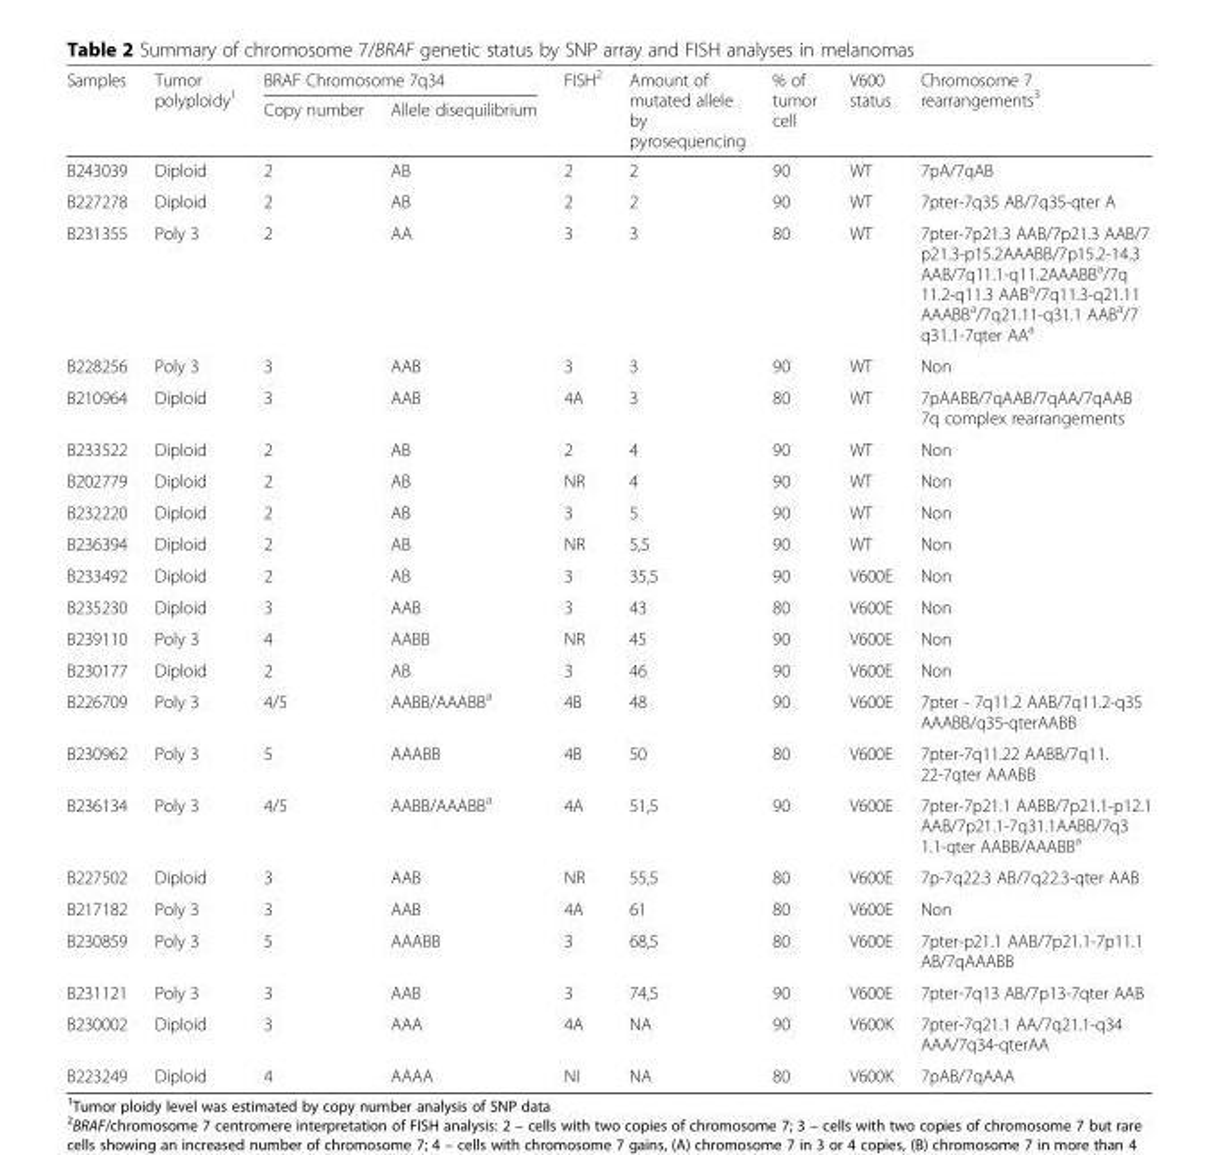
<table><thead><tr><td rowspan="2">Samples</td><td rowspan="2">Tumor polyploidy<sup>1</sup></td><td colspan="2">BRAF Chromosome 7q34</td><td rowspan="2">FISH<sup>2</sup></td><td rowspan="2">Amount of mutated allele by pyrosequencing</td><td rowspan="2">% of tumor cell</td><td rowspan="2">V600 status</td><td rowspan="2">Chromosome 7 rearrangements<sup>3</sup></td></tr><tr><td>Copy number</td><td>Allele disequilibrium</td></tr></thead><tbody><tr><td>B243039</td><td>Diploid</td><td>2</td><td>AB</td><td>2</td><td>2</td><td>90</td><td>WT</td><td>7pA/7qAB</td></tr><tr><td>B227278</td><td>Diploid</td><td>2</td><td>AB</td><td>2</td><td>2</td><td>90</td><td>WT</td><td>7pter-7q35 AB/7q35-qter A</td></tr><tr><td>B231355</td><td>Poly 3</td><td>2</td><td>AA</td><td>3</td><td>3</td><td>80</td><td>WT</td><td>7pter-7p21.3 AAB/7p21.3 AAB/7 p21.3-p15.2AAABB/7p15.2-14.3 AAB/7q11.1-q11.2AAABB<sup>a</sup>/7q 11.2-q11.3 AAB<sup>a</sup>/7q11.3-q21.11 AAABB<sup>a</sup>/7q21.11-q31.1 AAB<sup>a</sup>/7 q31.1-7qter AA<sup>a</sup></td></tr><tr><td>B228256</td><td>Poly 3</td><td>3</td><td>AAB</td><td>3</td><td>3</td><td>90</td><td>WT</td><td>Non</td></tr><tr><td>B210964</td><td>Diploid</td><td>3</td><td>AAB</td><td>4A</td><td>3</td><td>80</td><td>WT</td><td>7pAABB/7qAAB/7qAA/7qAAB 7q complex rearrangements</td></tr><tr><td>B233522</td><td>Diploid</td><td>2</td><td>AB</td><td>2</td><td>4</td><td>90</td><td>WT</td><td>Non</td></tr><tr><td>B202779</td><td>Diploid</td><td>2</td><td>AB</td><td>NR</td><td>4</td><td>90</td><td>WT</td><td>Non</td></tr><tr><td>B232220</td><td>Diploid</td><td>2</td><td>AB</td><td>3</td><td>5</td><td>90</td><td>WT</td><td>Non</td></tr><tr><td>B236394</td><td>Diploid</td><td>2</td><td>AB</td><td>NR</td><td>5,5</td><td>90</td><td>WT</td><td>Non</td></tr><tr><td>B233492</td><td>Diploid</td><td>2</td><td>AB</td><td>3</td><td>35,5</td><td>90</td><td>V600E</td><td>Non</td></tr><tr><td>B235230</td><td>Diploid</td><td>3</td><td>AAB</td><td>3</td><td>43</td><td>80</td><td>V600E</td><td>Non</td></tr><tr><td>B239110</td><td>Poly 3</td><td>4</td><td>AABB</td><td>NR</td><td>45</td><td>90</td><td>V600E</td><td>Non</td></tr><tr><td>B230177</td><td>Diploid</td><td>2</td><td>AB</td><td>3</td><td>46</td><td>90</td><td>V600E</td><td>Non</td></tr><tr><td>B226709</td><td>Poly 3</td><td>4/5</td><td>AABB/AAABB<sup>a</sup></td><td>4B</td><td>48</td><td>90</td><td>V600E</td><td>7pter - 7q11.2 AAB/7q11.2-q35 AAABB/q35-qterAABB</td></tr><tr><td>B230962</td><td>Poly 3</td><td>5</td><td>AAABB</td><td>4B</td><td>50</td><td>80</td><td>V600E</td><td>7pter-7q11.22 AABB/7q11. 22-7qter AAABB</td></tr><tr><td>B236134</td><td>Poly 3</td><td>4/5</td><td>AABB/AAABB<sup>a</sup></td><td>4A</td><td>51,5</td><td>90</td><td>V600E</td><td>7pter-7p21.1 AABB/7p21.1-p12.1 AAB/7p21.1-7q31.1AABB/7q3 1.1-qter AABB/AAABB<sup>a</sup></td></tr><tr><td>B227502</td><td>Diploid</td><td>3</td><td>AAB</td><td>NR</td><td>55,5</td><td>80</td><td>V600E</td><td>7p-7q22.3 AB/7q22.3-qter AAB</td></tr><tr><td>B217182</td><td>Poly 3</td><td>3</td><td>AAB</td><td>4A</td><td>61</td><td>80</td><td>V600E</td><td>Non</td></tr><tr><td>B230859</td><td>Poly 3</td><td>5</td><td>AAABB</td><td>3</td><td>68,5</td><td>80</td><td>V600E</td><td>7pter-p21.1 AAB/7p21.1-7p11.1 AB/7qAAABB</td></tr><tr><td>B231121</td><td>Poly 3</td><td>3</td><td>AAB</td><td>3</td><td>74,5</td><td>90</td><td>V600E</td><td>7pter-7q13 AB/7p13-7qter AAB</td></tr><tr><td>B230002</td><td>Diploid</td><td>3</td><td>AAA</td><td>4A</td><td>NA</td><td>90</td><td>V600K</td><td>7pter-7q21.1 AA/7q21.1-q34 AAA/7q34-qterAA</td></tr><tr><td>B223249</td><td>Diploid</td><td>4</td><td>AAAA</td><td>NI</td><td>NA</td><td>80</td><td>V600K</td><td>7pAB/7qAAA</td></tr></tbody></table>